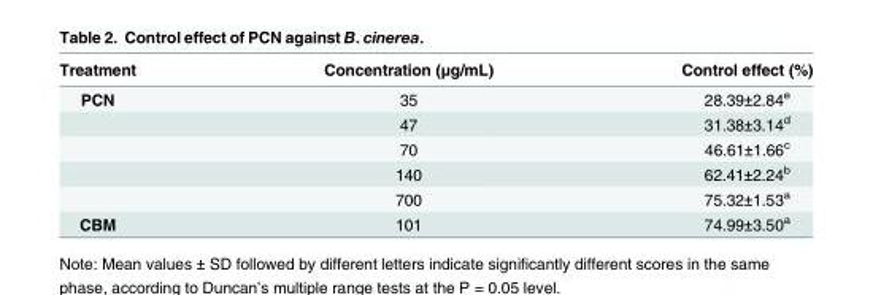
<table><thead><tr><td>Treatment</td><td>Concentration (μg/mL)</td><td>Control effect (%)</td></tr></thead><tbody><tr><td rowspan="5">PCN</td><td>35</td><td>28.39±2.84<sup>e</sup></td></tr><tr><td>47</td><td>31.38±3.14<sup>d</sup></td></tr><tr><td>70</td><td>46.61±1.66<sup>c</sup></td></tr><tr><td>140</td><td>62.41±2.24<sup>b</sup></td></tr><tr><td>700</td><td>75.32±1.53<sup>a</sup></td></tr><tr><td>CBM</td><td>101</td><td>74.99±3.50<sup>a</sup></td></tr></tbody></table>